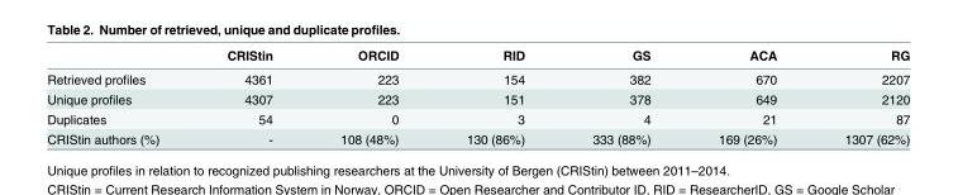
<table><thead><tr><td></td><td>CRIStin</td><td>ORCID</td><td>RID</td><td>GS</td><td>ACA</td><td>RG</td></tr></thead><tbody><tr><td>Retrieved profiles</td><td>4361</td><td>223</td><td>154</td><td>382</td><td>670</td><td>2207</td></tr><tr><td>Unique profiles</td><td>4307</td><td>223</td><td>151</td><td>378</td><td>649</td><td>2120</td></tr><tr><td>Duplicates</td><td>54</td><td>0</td><td>3</td><td>4</td><td>21</td><td>87</td></tr><tr><td>CRIStin authors (%)</td><td>-</td><td>108 (48%)</td><td>130 (86%)</td><td>333 (88%)</td><td>169 (26%)</td><td>1307 (62%)</td></tr></tbody></table>